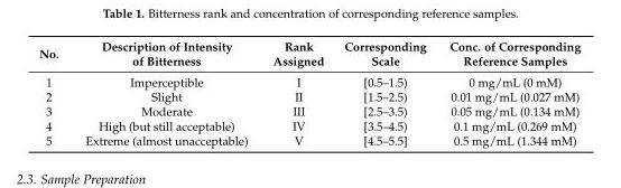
<table><thead><tr><td>No.</td><td>Description of Intensity of Bitterness</td><td>Rank Assigned</td><td>Corresponding Scale</td><td>Conc. of Corresponding Reference Samples</td></tr></thead><tbody><tr><td>1</td><td>Imperceptible</td><td>I</td><td>[0.5–1.5)</td><td>0 mg/mL (0 mM)</td></tr><tr><td>2</td><td>Slight</td><td>II</td><td>[1.5–2.5)</td><td>0.01 mg/mL (0.027 mM)</td></tr><tr><td>3</td><td>Moderate</td><td>III</td><td>[2.5–3.5)</td><td>0.05 mg/mL (0.134 mM)</td></tr><tr><td>4</td><td>High (but still acceptable)</td><td>IV</td><td>[3.5–4.5)</td><td>0.1 mg/mL (0.269 mM)</td></tr><tr><td>5</td><td>Extreme (almost unacceptable)</td><td>V</td><td>[4.5–5.5]</td><td>0.5 mg/mL (1.344 mM)</td></tr></tbody></table>